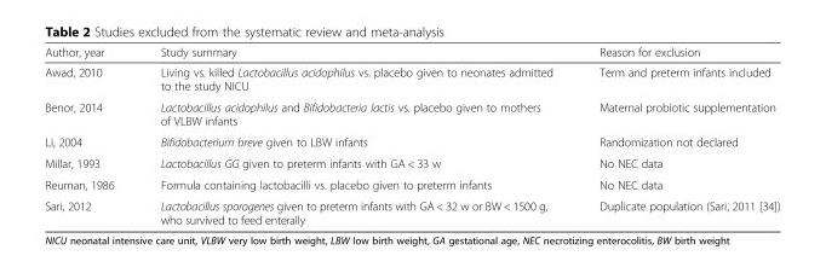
<table><thead><tr><td>Author, year</td><td>Study summary</td><td>Reason for exclusion</td></tr></thead><tbody><tr><td>Awad, 2010</td><td>Living vs. killed Lactobacillus acidophilus vs. placebo given to neonates admitted to the study NICU</td><td>Term and preterm infants included</td></tr><tr><td>Benor, 2014</td><td>Lactobacillus acidophilus and Bifidobacteria lactis vs. placebo given to mothers of VLBW infants</td><td>Maternal probiotic supplementation</td></tr><tr><td>Li, 2004</td><td>Bifidobacterium breve given to LBW infants</td><td>Randomization not declared</td></tr><tr><td>Millar, 1993</td><td>Lactobacillus GG given to preterm infants with GA &lt; 33 w</td><td>No NEC data</td></tr><tr><td>Reuman, 1986</td><td>Formula containing lactobacilli vs. placebo given to preterm infants</td><td>No NEC data</td></tr><tr><td>Sari, 2012</td><td>Lactobacillus sporogenes given to preterm infants with GA &lt; 32 w or BW &lt; 1500 g, who survived to feed enterally</td><td>Duplicate population (Sari, 2011 [34])</td></tr></tbody></table>